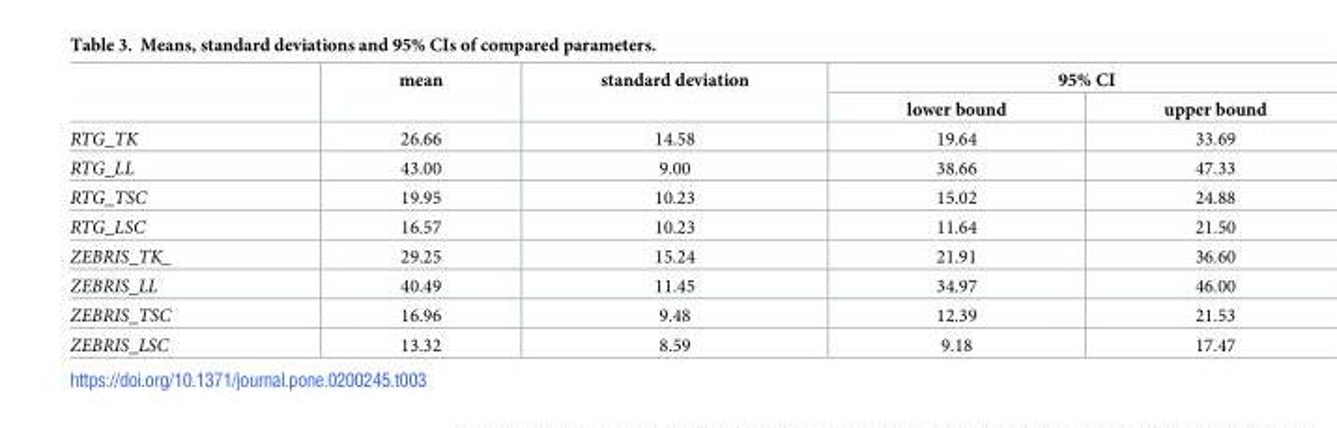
<table><thead><tr><td rowspan="2"></td><td rowspan="2">mean</td><td rowspan="2">standard deviation</td><td colspan="2">95% CI</td></tr><tr><td>lower bound</td><td>upper bound</td></tr></thead><tbody><tr><td>RTG_TK</td><td>26.66</td><td>14.58</td><td>19.64</td><td>33.69</td></tr><tr><td>RTG_LL</td><td>43.00</td><td>9.00</td><td>38.66</td><td>47.33</td></tr><tr><td>RTG_TSC</td><td>19.95</td><td>10.23</td><td>15.02</td><td>24.88</td></tr><tr><td>RTG_LSC</td><td>16.57</td><td>10.23</td><td>11.64</td><td>21.50</td></tr><tr><td>ZEBRIS_TK_</td><td>29.25</td><td>15.24</td><td>21.91</td><td>36.60</td></tr><tr><td>ZEBRIS_LL</td><td>40.49</td><td>11.45</td><td>34.97</td><td>46.00</td></tr><tr><td>ZEBRIS_TSC</td><td>16.96</td><td>9.48</td><td>12.39</td><td>21.53</td></tr><tr><td>ZEBRIS_LSC</td><td>13.32</td><td>8.59</td><td>9.18</td><td>17.47</td></tr></tbody></table>